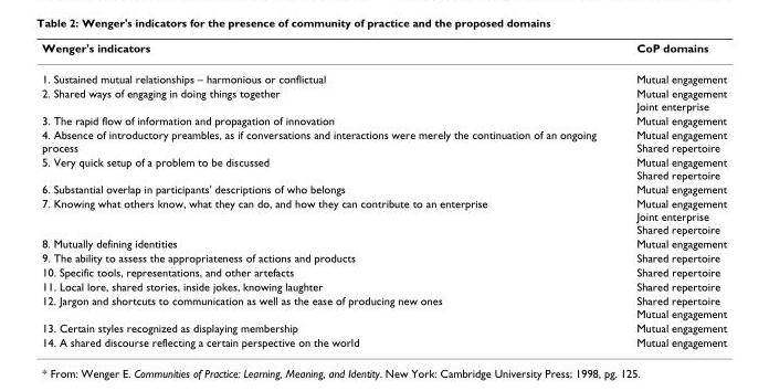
<table><thead><tr><td>Wenger&#x27;s indicators</td><td>CoP domains</td></tr></thead><tbody><tr><td>1. Sustained mutual relationships – harmonious or conflictual</td><td>Mutual engagement</td></tr><tr><td>2. Shared ways of engaging in doing things together</td><td>Mutual engagement Joint enterprise</td></tr><tr><td>3. The rapid flow of information and propagation of innovation</td><td>Mutual engagement</td></tr><tr><td>4. Absence of introductory preambles, as if conversations and interactions were merely the continuation of an ongoing process</td><td>Mutual engagement Shared repertoire</td></tr><tr><td>5. Very quick setup of a problem to be discussed</td><td>Mutual engagement Shared repertoire</td></tr><tr><td>6. Substantial overlap in participants&#x27; descriptions of who belongs</td><td>Mutual engagement</td></tr><tr><td>7. Knowing what others know, what they can do, and how they can contribute to an enterprise</td><td>Mutual engagement Joint enterprise Shared repertoire</td></tr><tr><td>8. Mutually defining identities</td><td>Mutual engagement</td></tr><tr><td>9. The ability to assess the appropriateness of actions and products</td><td>Shared repertoire</td></tr><tr><td>10. Specific tools, representations, and other artefacts</td><td>Shared repertoire</td></tr><tr><td>11. Local lore, shared stories, inside jokes, knowing laughter</td><td>Shared repertoire</td></tr><tr><td>12. Jargon and shortcuts to communication as well as the ease of producing new ones</td><td>Shared repertoire Mutual engagement</td></tr><tr><td>13. Certain styles recognized as displaying membership</td><td>Mutual engagement</td></tr><tr><td>14. A shared discourse reflecting a certain perspective on the world</td><td>Mutual engagement</td></tr></tbody></table>